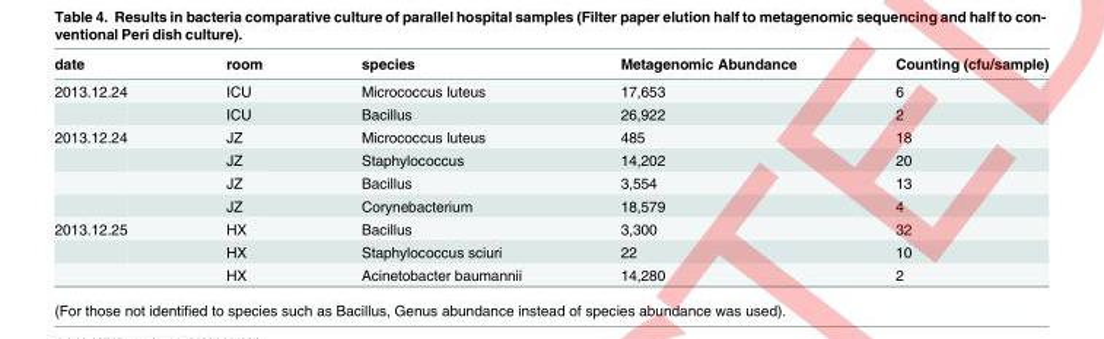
<table><thead><tr><td>date</td><td>room</td><td>species</td><td>Metagenomic Abundance</td><td>Counting (cfu/sample)</td></tr></thead><tbody><tr><td rowspan="2">2013.12.24</td><td>ICU</td><td>Micrococcus luteus</td><td>17,653</td><td>6</td></tr><tr><td>ICU</td><td>Bacillus</td><td>26,922</td><td>2</td></tr><tr><td rowspan="4">2013.12.24</td><td>JZ</td><td>Micrococcus luteus</td><td>485</td><td>18</td></tr><tr><td>JZ</td><td>Staphylococcus</td><td>14,202</td><td>20</td></tr><tr><td>JZ</td><td>Bacillus</td><td>3,554</td><td>13</td></tr><tr><td>JZ</td><td>Corynebacterium</td><td>18,579</td><td>4</td></tr><tr><td rowspan="3">2013.12.25</td><td>HX</td><td>Bacillus</td><td>3,300</td><td>32</td></tr><tr><td>HX</td><td>Staphylococcus sciuri</td><td>22</td><td>10</td></tr><tr><td>HX</td><td>Acinetobacter baumannii</td><td>14,280</td><td>2</td></tr></tbody></table>